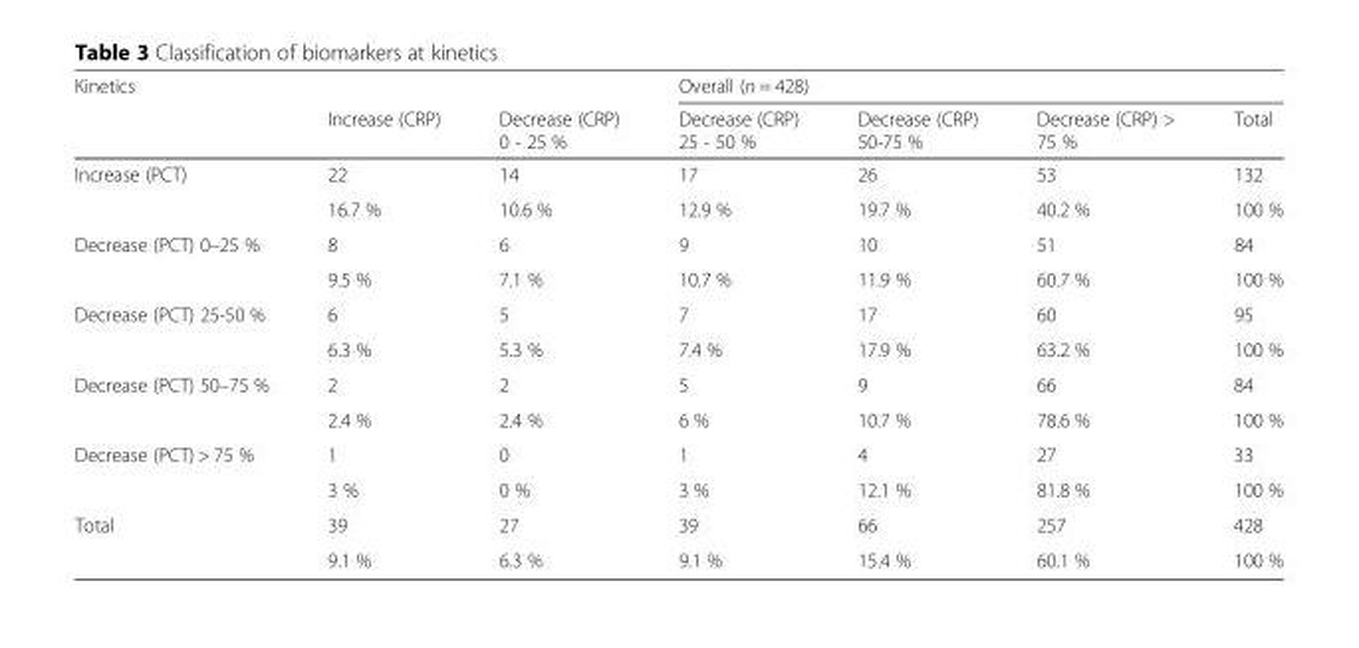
<table><thead><tr><td rowspan="2">Kinetics</td><td rowspan="2">Increase (CRP)</td><td rowspan="2">Decrease (CRP) 0 - 25 %</td><td colspan="4">Overall (n = 428)</td></tr><tr><td>Decrease (CRP) 25 - 50 %</td><td>Decrease (CRP) 50-75 %</td><td>Decrease (CRP) &gt; 75 %</td><td>Total</td></tr></thead><tbody><tr><td rowspan="2">Increase (PCT)</td><td>22</td><td>14</td><td>17</td><td>26</td><td>53</td><td>132</td></tr><tr><td>16.7 %</td><td>10.6 %</td><td>12.9 %</td><td>19.7 %</td><td>40.2 %</td><td>100 %</td></tr><tr><td rowspan="2">Decrease (PCT) 0–25 %</td><td>8</td><td>6</td><td>9</td><td>10</td><td>51</td><td>84</td></tr><tr><td>9.5 %</td><td>7.1 %</td><td>10.7 %</td><td>11.9 %</td><td>60.7 %</td><td>100 %</td></tr><tr><td rowspan="2">Decrease (PCT) 25-50 %</td><td>6</td><td>5</td><td>7</td><td>17</td><td>60</td><td>95</td></tr><tr><td>6.3 %</td><td>5.3 %</td><td>7.4 %</td><td>17.9 %</td><td>63.2 %</td><td>100 %</td></tr><tr><td rowspan="2">Decrease (PCT) 50–75 %</td><td>2</td><td>2</td><td>5</td><td>9</td><td>66</td><td>84</td></tr><tr><td>2.4 %</td><td>2.4 %</td><td>6 %</td><td>10.7 %</td><td>78.6 %</td><td>100 %</td></tr><tr><td rowspan="2">Decrease (PCT) &gt; 75 %</td><td>1</td><td>0</td><td>1</td><td>4</td><td>27</td><td>33</td></tr><tr><td>3 %</td><td>0 %</td><td>3 %</td><td>12.1 %</td><td>81.8 %</td><td>100 %</td></tr><tr><td rowspan="2">Total</td><td>39</td><td>27</td><td>39</td><td>66</td><td>257</td><td>428</td></tr><tr><td>9.1 %</td><td>6.3 %</td><td>9.1 %</td><td>15.4 %</td><td>60.1 %</td><td>100 %</td></tr></tbody></table>